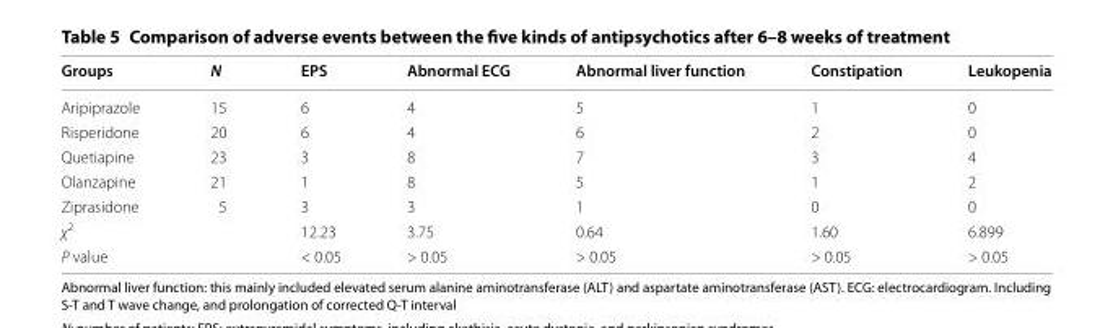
<table><thead><tr><td>Groups</td><td>N</td><td>EPS</td><td>Abnormal ECG</td><td>Abnormal liver function</td><td>Constipation</td><td>Leukopenia</td></tr></thead><tbody><tr><td>Aripiprazole</td><td>15</td><td>6</td><td>4</td><td>5</td><td>1</td><td>0</td></tr><tr><td>Risperidone</td><td>20</td><td>6</td><td>4</td><td>6</td><td>2</td><td>0</td></tr><tr><td>Quetiapine</td><td>23</td><td>3</td><td>8</td><td>7</td><td>3</td><td>4</td></tr><tr><td>Olanzapine</td><td>21</td><td>1</td><td>8</td><td>5</td><td>1</td><td>2</td></tr><tr><td>Ziprasidone</td><td>5</td><td>3</td><td>3</td><td>1</td><td>0</td><td>0</td></tr><tr><td>χ<sup>2</sup></td><td></td><td>12.23</td><td>3.75</td><td>0.64</td><td>1.60</td><td>6.899</td></tr><tr><td>P value</td><td></td><td>&lt; 0.05</td><td>&gt; 0.05</td><td>&gt; 0.05</td><td>&gt; 0.05</td><td>&gt; 0.05</td></tr></tbody></table>